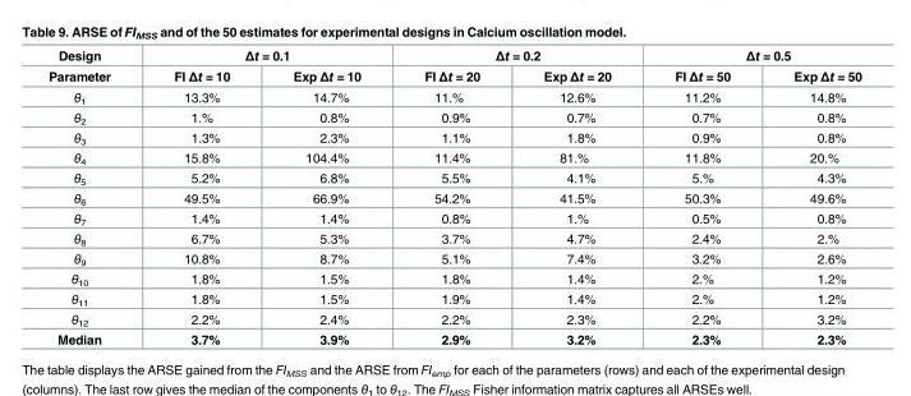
<table><thead><tr><td rowspan="2">Design Parameter</td><td colspan="2">Δt = 0.1</td><td colspan="2">Δt = 0.2</td><td colspan="2">Δt = 0.5</td></tr><tr><td>FI Δt = 10</td><td>Exp Δt = 10</td><td>FI Δt = 20</td><td>Exp Δt = 20</td><td>FI Δt = 50</td><td>Exp Δt = 50</td></tr></thead><tbody><tr><td>θ<sub>1</sub></td><td>13.3%</td><td>14.7%</td><td>11.%</td><td>12.6%</td><td>11.2%</td><td>14.8%</td></tr><tr><td>θ<sub>2</sub></td><td>1.%</td><td>0.8%</td><td>0.9%</td><td>0.7%</td><td>0.7%</td><td>0.8%</td></tr><tr><td>θ<sub>3</sub></td><td>1.3%</td><td>2.3%</td><td>1.1%</td><td>1.8%</td><td>0.9%</td><td>0.8%</td></tr><tr><td>θ<sub>4</sub></td><td>15.8%</td><td>104.4%</td><td>11.4%</td><td>81.%</td><td>11.8%</td><td>20.%</td></tr><tr><td>θ<sub>5</sub></td><td>5.2%</td><td>6.8%</td><td>5.5%</td><td>4.1%</td><td>5.%</td><td>4.3%</td></tr><tr><td>θ<sub>6</sub></td><td>49.5%</td><td>66.9%</td><td>54.2%</td><td>41.5%</td><td>50.3%</td><td>49.6%</td></tr><tr><td>θ<sub>7</sub></td><td>1.4%</td><td>1.4%</td><td>0.8%</td><td>1.%</td><td>0.5%</td><td>0.8%</td></tr><tr><td>θ<sub>8</sub></td><td>6.7%</td><td>5.3%</td><td>3.7%</td><td>4.7%</td><td>2.4%</td><td>2.%</td></tr><tr><td>θ<sub>9</sub></td><td>10.8%</td><td>8.7%</td><td>5.1%</td><td>7.4%</td><td>3.2%</td><td>2.6%</td></tr><tr><td>θ<sub>10</sub></td><td>1.8%</td><td>1.5%</td><td>1.8%</td><td>1.4%</td><td>2.%</td><td>1.2%</td></tr><tr><td>θ<sub>11</sub></td><td>1.8%</td><td>1.5%</td><td>1.9%</td><td>1.4%</td><td>2.%</td><td>1.2%</td></tr><tr><td>θ<sub>12</sub></td><td>2.2%</td><td>2.4%</td><td>2.2%</td><td>2.3%</td><td>2.2%</td><td>3.2%</td></tr><tr><td>Median</td><td>3.7%</td><td>3.9%</td><td>2.9%</td><td>3.2%</td><td>2.3%</td><td>2.3%</td></tr></tbody></table>